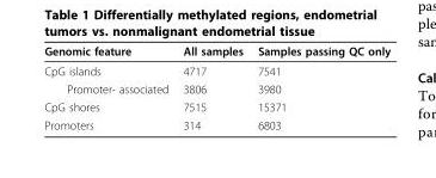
<table><thead><tr><td>Genomic feature</td><td>All samples</td><td>Samples passing QC only</td></tr></thead><tbody><tr><td>CpG islands</td><td>4717</td><td>7541</td></tr><tr><td>Promoter- associated</td><td>3806</td><td>3980</td></tr><tr><td>CpG shores</td><td>7515</td><td>15371</td></tr><tr><td>Promoters</td><td>314</td><td>6803</td></tr></tbody></table>